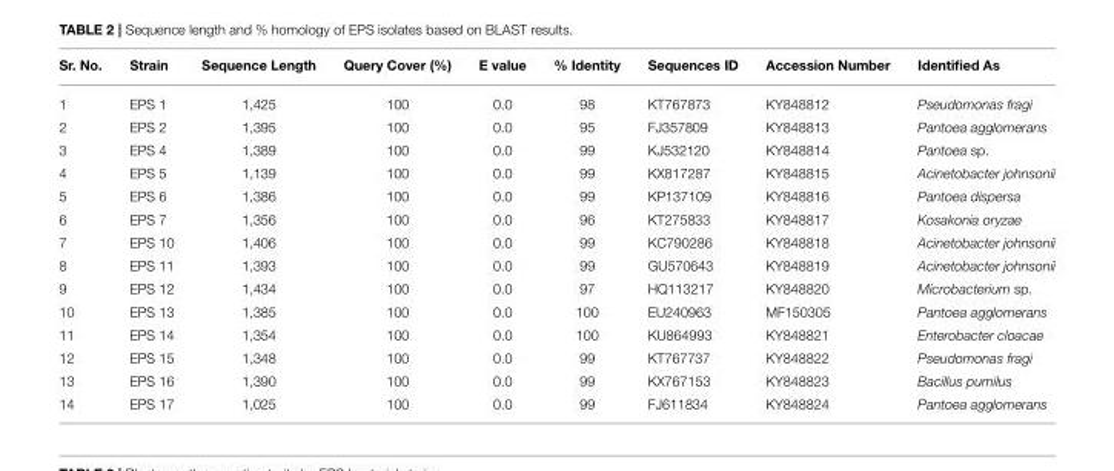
<table><thead><tr><td>Sr. No.</td><td>Strain</td><td>Sequence Length</td><td>Query Cover (%)</td><td>E value</td><td>% Identity</td><td>Sequences ID</td><td>Accession Number</td><td>Identified As</td></tr></thead><tbody><tr><td>1</td><td>EPS 1</td><td>1,425</td><td>100</td><td>0.0</td><td>98</td><td>KT767873</td><td>KY848812</td><td>Pseudomonas fragi</td></tr><tr><td>2</td><td>EPS 2</td><td>1,395</td><td>100</td><td>0.0</td><td>95</td><td>FJ357809</td><td>KY848813</td><td>Pantoea agglomerans</td></tr><tr><td>3</td><td>EPS 4</td><td>1,389</td><td>100</td><td>0.0</td><td>99</td><td>KJ532120</td><td>KY848814</td><td>Pantoea sp.</td></tr><tr><td>4</td><td>EPS 5</td><td>1,139</td><td>100</td><td>0.0</td><td>99</td><td>KX817287</td><td>KY848815</td><td>Acinetobacter johnsonii</td></tr><tr><td>5</td><td>EPS 6</td><td>1,386</td><td>100</td><td>0.0</td><td>99</td><td>KP137109</td><td>KY848816</td><td>Pantoea dispersa</td></tr><tr><td>6</td><td>EPS 7</td><td>1,356</td><td>100</td><td>0.0</td><td>96</td><td>KT275833</td><td>KY848817</td><td>Kosakonia oryzae</td></tr><tr><td>7</td><td>EPS 10</td><td>1,406</td><td>100</td><td>0.0</td><td>99</td><td>KC790286</td><td>KY848818</td><td>Acinetobacter johnsonii</td></tr><tr><td>8</td><td>EPS 11</td><td>1,393</td><td>100</td><td>0.0</td><td>99</td><td>GU570643</td><td>KY848819</td><td>Acinetobacter johnsonii</td></tr><tr><td>9</td><td>EPS 12</td><td>1,434</td><td>100</td><td>0.0</td><td>97</td><td>HQ113217</td><td>KY848820</td><td>Microbacterium sp.</td></tr><tr><td>10</td><td>EPS 13</td><td>1,385</td><td>100</td><td>0.0</td><td>100</td><td>EU240963</td><td>MF150305</td><td>Pantoea agglomerans</td></tr><tr><td>11</td><td>EPS 14</td><td>1,354</td><td>100</td><td>0.0</td><td>100</td><td>KU864993</td><td>KY848821</td><td>Enterobacter cloacae</td></tr><tr><td>12</td><td>EPS 15</td><td>1,348</td><td>100</td><td>0.0</td><td>99</td><td>KT767737</td><td>KY848822</td><td>Pseudomonas fragi</td></tr><tr><td>13</td><td>EPS 16</td><td>1,390</td><td>100</td><td>0.0</td><td>99</td><td>KX767153</td><td>KY848823</td><td>Bacillus pumilus</td></tr><tr><td>14</td><td>EPS 17</td><td>1,025</td><td>100</td><td>0.0</td><td>99</td><td>FJ611834</td><td>KY848824</td><td>Pantoea agglomerans</td></tr></tbody></table>